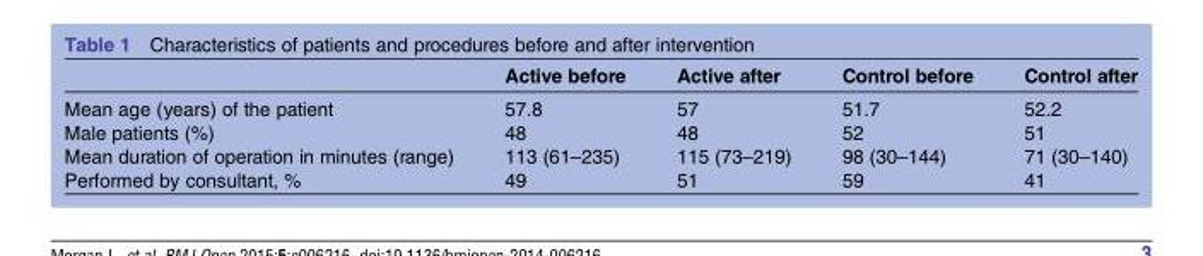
<table><thead><tr><td></td><td>Active before</td><td>Active after</td><td>Control before</td><td>Control after</td></tr></thead><tbody><tr><td>Mean age (years) of the patient</td><td>57.8</td><td>57</td><td>51.7</td><td>52.2</td></tr><tr><td>Male patients (%)</td><td>48</td><td>48</td><td>52</td><td>51</td></tr><tr><td>Mean duration of operation in minutes (range)</td><td>113 (61–235)</td><td>115 (73–219)</td><td>98 (30–144)</td><td>71 (30–140)</td></tr><tr><td>Performed by consultant, %</td><td>49</td><td>51</td><td>59</td><td>41</td></tr></tbody></table>